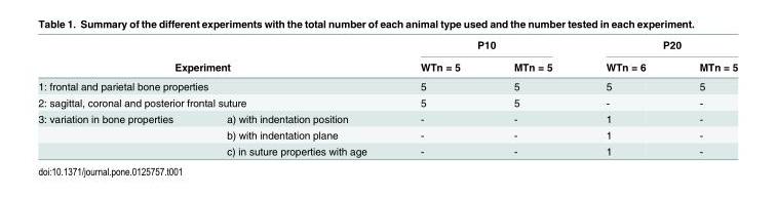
<table><thead><tr><td></td><td></td><td colspan="2">P10</td><td colspan="2">P20</td></tr><tr><td colspan="2">Experiment</td><td>WTn = 5</td><td>MTn = 5</td><td>WTn = 6</td><td>MTn = 5</td></tr></thead><tbody><tr><td colspan="2">1: frontal and parietal bone properties</td><td>5</td><td>5</td><td>5</td><td>5</td></tr><tr><td colspan="2">2: sagittal, coronal and posterior frontal suture</td><td>5</td><td>5</td><td>-</td><td>-</td></tr><tr><td rowspan="3">3: variation in bone properties</td><td>a) with indentation position</td><td>-</td><td>-</td><td>1</td><td>-</td></tr><tr><td>b) with indentation plane</td><td>-</td><td>-</td><td>1</td><td>-</td></tr><tr><td>c) in suture properties with age</td><td>-</td><td>-</td><td>1</td><td>-</td></tr></tbody></table>